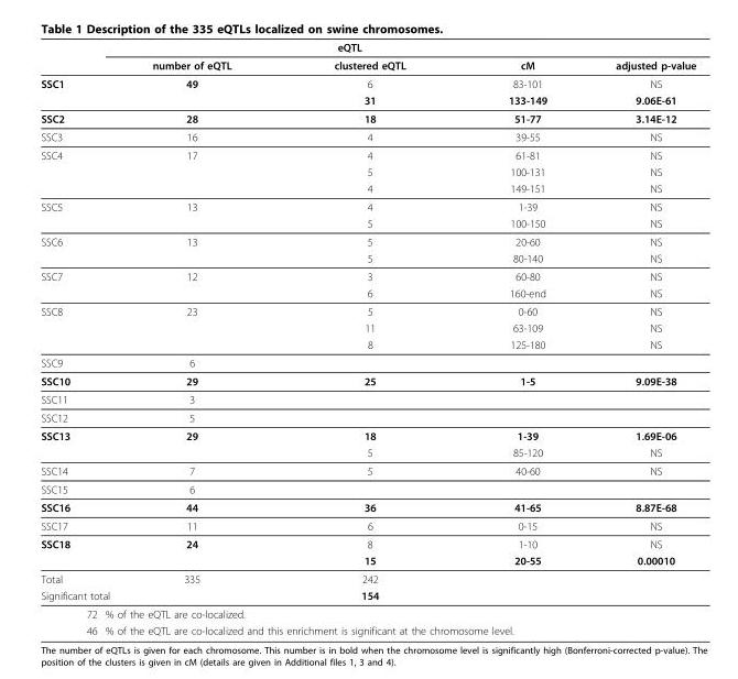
<table><thead><tr><td rowspan="2"></td><td colspan="3">eQTL</td><td rowspan="2">adjusted p-value</td></tr><tr><td>number of eQTL</td><td>clustered eQTL</td><td>cM</td></tr></thead><tbody><tr><td rowspan="2">SSC1</td><td>49</td><td>6</td><td>83-101</td><td>NS</td></tr><tr><td></td><td>31</td><td>133-149</td><td>9.06E-61</td></tr><tr><td>SSC2</td><td>28</td><td>18</td><td>51-77</td><td>3.14E-12</td></tr><tr><td>SSC3</td><td>16</td><td>4</td><td>39-55</td><td>NS</td></tr><tr><td rowspan="3">SSC4</td><td>17</td><td>4</td><td>61-81</td><td>NS</td></tr><tr><td></td><td>5</td><td>100-131</td><td>NS</td></tr><tr><td></td><td>4</td><td>149-151</td><td>NS</td></tr><tr><td rowspan="2">SSC5</td><td>13</td><td>4</td><td>1-39</td><td>NS</td></tr><tr><td></td><td>5</td><td>100-150</td><td>NS</td></tr><tr><td rowspan="2">SSC6</td><td>13</td><td>5</td><td>20-60</td><td>NS</td></tr><tr><td></td><td>5</td><td>80-140</td><td>NS</td></tr><tr><td rowspan="2">SSC7</td><td>12</td><td>3</td><td>60-80</td><td>NS</td></tr><tr><td></td><td>6</td><td>160-end</td><td>NS</td></tr><tr><td rowspan="3">SSC8</td><td>23</td><td>5</td><td>0-60</td><td>NS</td></tr><tr><td></td><td>11</td><td>63-109</td><td>NS</td></tr><tr><td></td><td>8</td><td>125-180</td><td>NS</td></tr><tr><td>SSC9</td><td>6</td><td></td><td></td><td></td></tr><tr><td>SSC10</td><td>29</td><td>25</td><td>1-5</td><td>9.09E-38</td></tr><tr><td>SSC11</td><td>3</td><td></td><td></td><td></td></tr><tr><td>SSC12</td><td>5</td><td></td><td></td><td></td></tr><tr><td rowspan="2">SSC13</td><td>29</td><td>18</td><td>1-39</td><td>1.69E-06</td></tr><tr><td></td><td>5</td><td>85-120</td><td>NS</td></tr><tr><td>SSC14</td><td>7</td><td>5</td><td>40-60</td><td>NS</td></tr><tr><td>SSC15</td><td>6</td><td></td><td></td><td></td></tr><tr><td>SSC16</td><td>44</td><td>36</td><td>41-65</td><td>8.87E-68</td></tr><tr><td>SSC17</td><td>11</td><td>6</td><td>0-15</td><td>NS</td></tr><tr><td rowspan="2">SSC18</td><td>24</td><td>8</td><td>1-10</td><td>NS</td></tr><tr><td></td><td>15</td><td>20-55</td><td>0.00010</td></tr><tr><td>Total</td><td>335</td><td>242</td><td></td><td></td></tr><tr><td colspan="2">Significant total</td><td>154</td><td></td><td></td></tr><tr><td>72</td><td colspan="3">% of the eQTL are co-localized.</td><td></td></tr><tr><td>46</td><td colspan="3">% of the eQTL are co-localized and this enrichment is significant at the chromosome level.</td><td></td></tr></tbody></table>